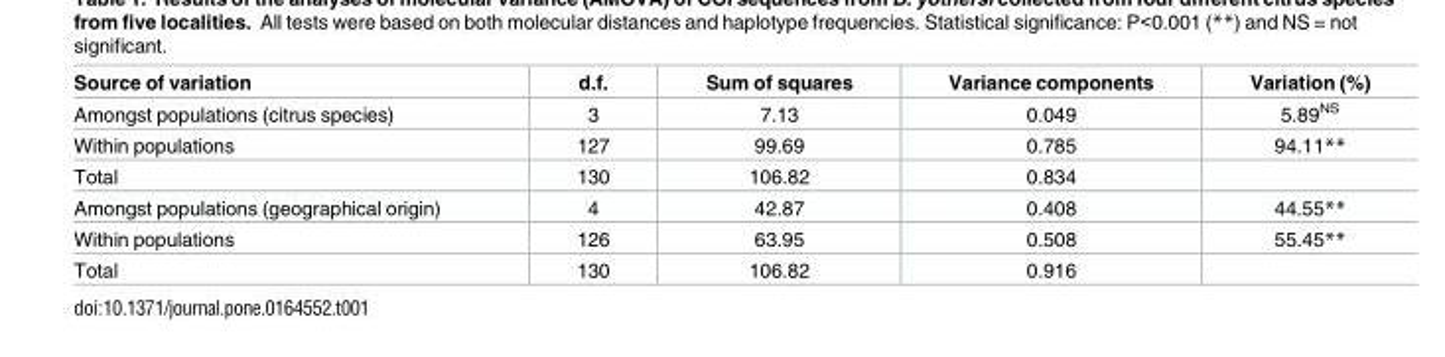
<table><thead><tr><td>Source of variation</td><td>d.f.</td><td>Sum of squares</td><td>Variance components</td><td>Variation (%)</td></tr></thead><tbody><tr><td>Amongst populations (citrus species)</td><td>3</td><td>7.13</td><td>0.049</td><td>5.89<sup>NS</sup></td></tr><tr><td>Within populations</td><td>127</td><td>99.69</td><td>0.785</td><td>94.11**</td></tr><tr><td>Total</td><td>130</td><td>106.82</td><td>0.834</td><td></td></tr><tr><td>Amongst populations (geographical origin)</td><td>4</td><td>42.87</td><td>0.408</td><td>44.55**</td></tr><tr><td>Within populations</td><td>126</td><td>63.95</td><td>0.508</td><td>55.45**</td></tr><tr><td>Total</td><td>130</td><td>106.82</td><td>0.916</td><td></td></tr></tbody></table>